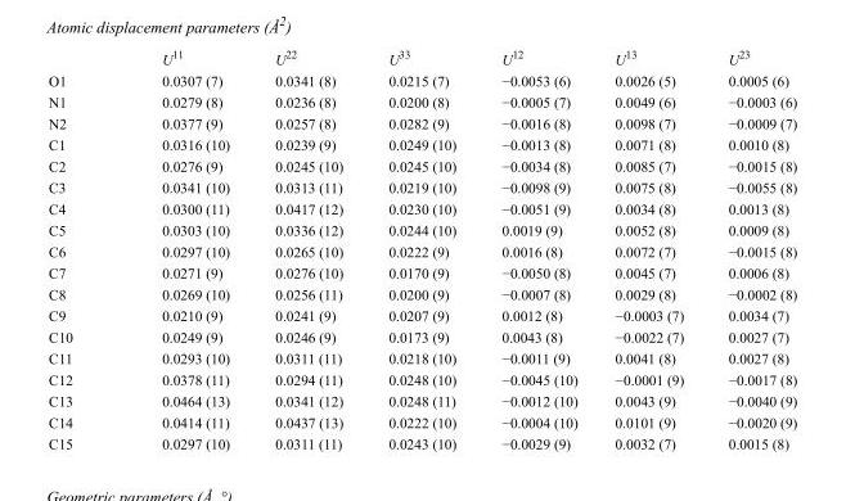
<table><thead><tr><td></td><td>U<sup>11</sup></td><td>U<sup>22</sup></td><td>U<sup>33</sup></td><td>U<sup>12</sup></td><td>U<sup>13</sup></td><td>U<sup>23</sup></td></tr></thead><tbody><tr><td>O1</td><td>0.0307 (7)</td><td>0.0341 (8)</td><td>0.0215 (7)</td><td>−0.0053 (6)</td><td>0.0026 (5)</td><td>0.0005 (6)</td></tr><tr><td>N1</td><td>0.0279 (8)</td><td>0.0236 (8)</td><td>0.0200 (8)</td><td>−0.0005 (7)</td><td>0.0049 (6)</td><td>−0.0003 (6)</td></tr><tr><td>N2</td><td>0.0377 (9)</td><td>0.0257 (8)</td><td>0.0282 (9)</td><td>−0.0016 (8)</td><td>0.0098 (7)</td><td>−0.0009 (7)</td></tr><tr><td>C1</td><td>0.0316 (10)</td><td>0.0239 (9)</td><td>0.0249 (10)</td><td>−0.0013 (8)</td><td>0.0071 (8)</td><td>0.0010 (8)</td></tr><tr><td>C2</td><td>0.0276 (9)</td><td>0.0245 (10)</td><td>0.0245 (10)</td><td>−0.0034 (8)</td><td>0.0085 (7)</td><td>−0.0015 (8)</td></tr><tr><td>C3</td><td>0.0341 (10)</td><td>0.0313 (11)</td><td>0.0219 (10)</td><td>−0.0098 (9)</td><td>0.0075 (8)</td><td>−0.0055 (8)</td></tr><tr><td>C4</td><td>0.0300 (11)</td><td>0.0417 (12)</td><td>0.0230 (10)</td><td>−0.0051 (9)</td><td>0.0034 (8)</td><td>0.0013 (8)</td></tr><tr><td>C5</td><td>0.0303 (10)</td><td>0.0336 (12)</td><td>0.0244 (10)</td><td>0.0019 (9)</td><td>0.0052 (8)</td><td>0.0009 (8)</td></tr><tr><td>C6</td><td>0.0297 (10)</td><td>0.0265 (10)</td><td>0.0222 (9)</td><td>0.0016 (8)</td><td>0.0072 (7)</td><td>−0.0015 (8)</td></tr><tr><td>C7</td><td>0.0271 (9)</td><td>0.0276 (10)</td><td>0.0170 (9)</td><td>−0.0050 (8)</td><td>0.0045 (7)</td><td>0.0006 (8)</td></tr><tr><td>C8</td><td>0.0269 (10)</td><td>0.0256 (11)</td><td>0.0200 (9)</td><td>−0.0007 (8)</td><td>0.0029 (8)</td><td>−0.0002 (8)</td></tr><tr><td>C9</td><td>0.0210 (9)</td><td>0.0241 (9)</td><td>0.0207 (9)</td><td>0.0012 (8)</td><td>−0.0003 (7)</td><td>0.0034 (7)</td></tr><tr><td>C10</td><td>0.0249 (9)</td><td>0.0246 (9)</td><td>0.0173 (9)</td><td>0.0043 (8)</td><td>−0.0022 (7)</td><td>0.0027 (7)</td></tr><tr><td>C11</td><td>0.0293 (10)</td><td>0.0311 (11)</td><td>0.0218 (10)</td><td>−0.0011 (9)</td><td>0.0041 (8)</td><td>0.0027 (8)</td></tr><tr><td>C12</td><td>0.0378 (11)</td><td>0.0294 (11)</td><td>0.0248 (10)</td><td>−0.0045 (10)</td><td>−0.0001 (9)</td><td>−0.0017 (8)</td></tr><tr><td>C13</td><td>0.0464 (13)</td><td>0.0341 (12)</td><td>0.0248 (11)</td><td>−0.0012 (10)</td><td>0.0043 (9)</td><td>−0.0040 (9)</td></tr><tr><td>C14</td><td>0.0414 (11)</td><td>0.0437 (13)</td><td>0.0222 (10)</td><td>−0.0004 (10)</td><td>0.0101 (9)</td><td>−0.0020 (9)</td></tr><tr><td>C15</td><td>0.0297 (10)</td><td>0.0311 (11)</td><td>0.0243 (10)</td><td>−0.0029 (9)</td><td>0.0032 (7)</td><td>0.0015 (8)</td></tr></tbody></table>